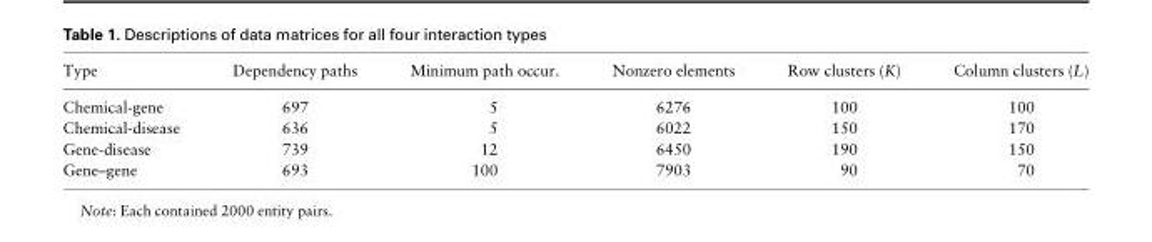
<table><thead><tr><td>Type</td><td>Dependency paths</td><td>Minimum path occur.</td><td>Nonzero elements</td><td>Row clusters (K)</td><td>Column clusters (L)</td></tr></thead><tbody><tr><td>Chemical-gene</td><td>697</td><td>5</td><td>6276</td><td>100</td><td>100</td></tr><tr><td>Chemical-disease</td><td>636</td><td>5</td><td>6022</td><td>150</td><td>170</td></tr><tr><td>Gene-disease</td><td>739</td><td>12</td><td>6450</td><td>190</td><td>150</td></tr><tr><td>Gene–gene</td><td>693</td><td>100</td><td>7903</td><td>90</td><td>70</td></tr></tbody></table>